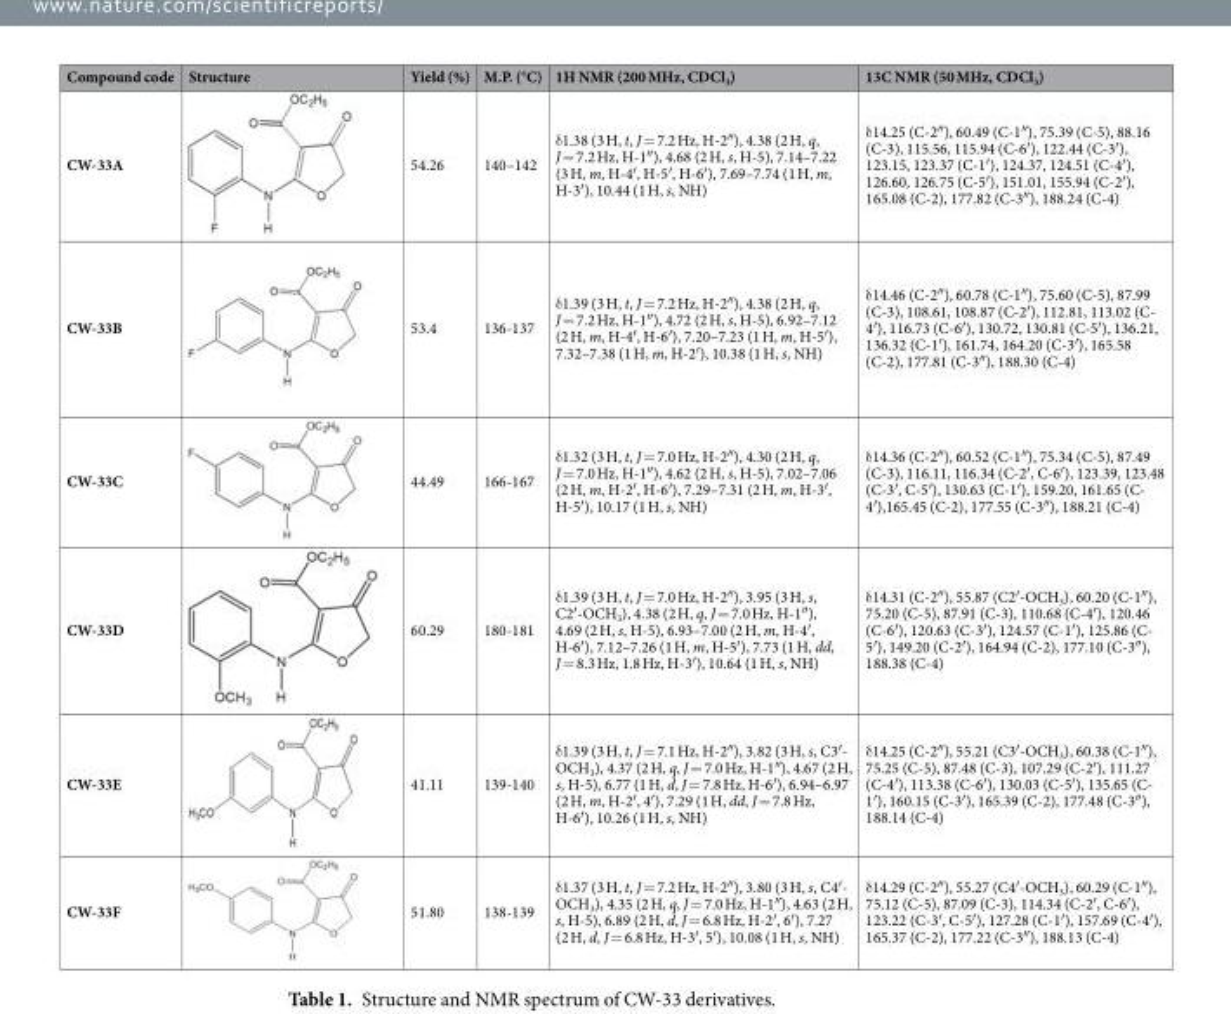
<table><thead><tr><td>Compound code</td><td>Structure</td><td>Yield (%)</td><td>M.P. (°C)</td><td>1H NMR (200 MHz, CDCl<sub>3</sub>)</td><td>13C NMR (50 MHz, CDCl<sub>3</sub>)</td></tr></thead><tbody><tr><td>CW-33A</td><td></td><td>54.26</td><td>140–142</td><td>δ1.38 (3 H, t, J = 7.2 Hz, H-2″), 4.38 (2 H, q, J = 7.2 Hz, H-1″), 4.68 (2 H, s, H-5), 7.14–7.22 (3 H, m, H-4′, H-5′, H-6′), 7.69–7.74 (1 H, m, H-3′), 10.44 (1 H, s, NH)</td><td>δ14.25 (C-2″), 60.49 (C-1″), 75.39 (C-5), 88.16 (C-3), 115.56, 115.94 (C-6′), 122.44 (C-3′), 123.15, 123.37 (C-1′), 124.37, 124.51 (C-4′), 126.60, 126.75 (C-5′), 151.01, 155.94 (C-2′), 165.08 (C-2), 177.82 (C-3″), 188.24 (C-4)</td></tr><tr><td>CW-33B</td><td></td><td>53.4</td><td>136-137</td><td>δ1.39 (3 H, t, J = 7.2 Hz, H-2″), 4.38 (2 H, q, J = 7.2 Hz, H-1″), 4.72 (2 H, s, H-5), 6.92–7.12 (2 H, m, H-4′, H-6′), 7.20–7.23 (1 H, m, H-5′), 7.32–7.38 (1 H, m, H-2′), 10.38 (1 H, s, NH)</td><td>δ14.46 (C-2″), 60.78 (C-1″), 75.60 (C-5), 87.99 (C-3), 108.61, 108.87 (C-2′), 112.81, 113.02 (C- 4′), 116.73 (C-6′), 130.72, 130.81 (C-5′), 136.21, 136.32 (C-1′), 161.74, 164.20 (C-3′), 165.58 (C-2), 177.81 (C-3″), 188.30 (C-4)</td></tr><tr><td>CW-33C</td><td></td><td>44.49</td><td>166-167</td><td>δ1.32 (3 H, t, J = 7.0 Hz, H-2″), 4.30 (2 H, q, J = 7.0 Hz, H-1″), 4.62 (2 H, s, H-5), 7.02–7.06 (2 H, m, H-2′, H-6′), 7.29–7.31 (2 H, m, H-3′, H-5′), 10.17 (1 H, s, NH)</td><td>δ14.36 (C-2″), 60.52 (C-1″), 75.34 (C-5), 87.49 (C-3), 116.11, 116.34 (C-2′, C-6′), 123.39, 123.48 (C-3′, C-5′), 130.63 (C-1′), 159.20, 161.65 (C- 4′),165.45 (C-2), 177.55 (C-3″), 188.21 (C-4)</td></tr><tr><td>CW-33D</td><td></td><td>60.29</td><td>180-181</td><td>δ1.39 (3 H, t, J = 7.0 Hz, H-2″), 3.95 (3 H, s, C2′-OCH<sub>3</sub>), 4.38 (2 H, q, J = 7.0 Hz, H-1″), 4.69 (2 H, s, H-5), 6.93–7.00 (2 H, m, H-4′, H-6′), 7.12–7.26 (1 H, m, H-5′), 7.73 (1 H, dd, J = 8.3 Hz, 1.8 Hz, H-3′), 10.64 (1 H, s, NH)</td><td>δ14.31 (C-2″), 55.87 (C2′-OCH<sub>3</sub>), 60.20 (C-1″), 75.20 (C-5), 87.91 (C-3), 110.68 (C-4′), 120.46 (C-6′), 120.63 (C-3′), 124.57 (C-1′), 125.86 (C- 5′), 149.20 (C-2′), 164.94 (C-2), 177.10 (C-3″), 188.38 (C-4)</td></tr><tr><td>CW-33E</td><td></td><td>41.11</td><td>139-140</td><td>δ1.39 (3 H, t, J = 7.1 Hz, H-2″), 3.82 (3 H, s, C3′- OCH<sub>3</sub>), 4.37 (2 H, q, J = 7.0 Hz, H-1″), 4.67 (2 H, s, H-5), 6.77 (1 H, d, J = 7.8 Hz, H-6′), 6.94–6.97 (2 H, m, H-2′, 4′), 7.29 (1 H, dd, J = 7.8 Hz, H-6′), 10.26 (1 H, s, NH)</td><td>δ14.25 (C-2″), 55.21 (C3′-OCH<sub>3</sub>), 60.38 (C-1″), 75.25 (C-5), 87.48 (C-3), 107.29 (C-2′), 111.27 (C-4′), 113.38 (C-6′), 130.03 (C-5′), 135.65 (C- 1′), 160.15 (C-3′), 165.39 (C-2), 177.48 (C-3″), 188.14 (C-4)</td></tr><tr><td>CW-33F</td><td></td><td>51.80</td><td>138-139</td><td>δ1.37 (3 H, t, J = 7.2 Hz, H-2″), 3.80 (3 H, s, C4′- OCH<sub>3</sub>), 4.35 (2 H, q, J = 7.0 Hz, H-1″), 4.63 (2 H, s, H-5), 6.89 (2 H, d, J = 6.8 Hz, H-2′, 6′), 7.27 (2 H, d, J = 6.8 Hz, H-3′, 5′), 10.08 (1 H, s, NH)</td><td>δ14.29 (C-2″), 55.27 (C4′-OCH<sub>3</sub>), 60.29 (C-1″), 75.12 (C-5), 87.09 (C-3), 114.34 (C-2′, C-6′), 123.22 (C-3′, C-5′), 127.28 (C-1′), 157.69 (C-4′), 165.37 (C-2), 177.22 (C-3″), 188.13 (C-4)</td></tr></tbody></table>